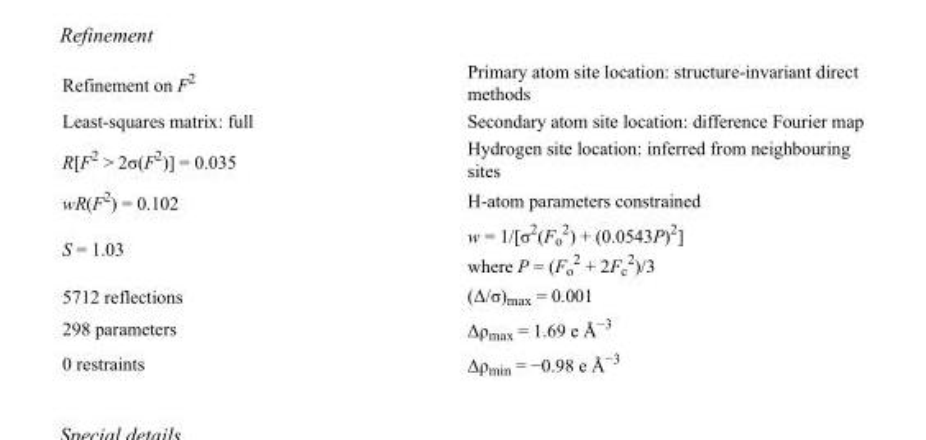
<table><tbody><tr><td>Refinement on F<sup>2</sup></td><td>Primary atom site location: structure-invariant direct methods</td></tr><tr><td>Least-squares matrix: full</td><td>Secondary atom site location: difference Fourier map</td></tr><tr><td>R[F<sup>2</sup> &gt; 2σ(F<sup>2</sup>)] = 0.035</td><td>Hydrogen site location: inferred from neighbouring sites</td></tr><tr><td>wR(F<sup>2</sup>) = 0.102</td><td>H-atom parameters constrained</td></tr><tr><td>S = 1.03</td><td>w = 1/[σ<sup>2</sup>(F<sub>o</sub> <sup>2</sup>) + (0.0543P)<sup>2</sup>] where P = (F<sub>o</sub> <sup>2</sup> + 2F<sub>c</sub> <sup>2</sup>)/3</td></tr><tr><td>5712 reflections</td><td>(Δ/σ)<sub>max</sub> = 0.001</td></tr><tr><td>298 parameters</td><td>Δρ<sub>max</sub> = 1.69 e Å<sup>−3</sup></td></tr><tr><td>0 restraints</td><td>Δρ<sub>min</sub> = −0.98 e Å<sup>−3</sup></td></tr></tbody></table>